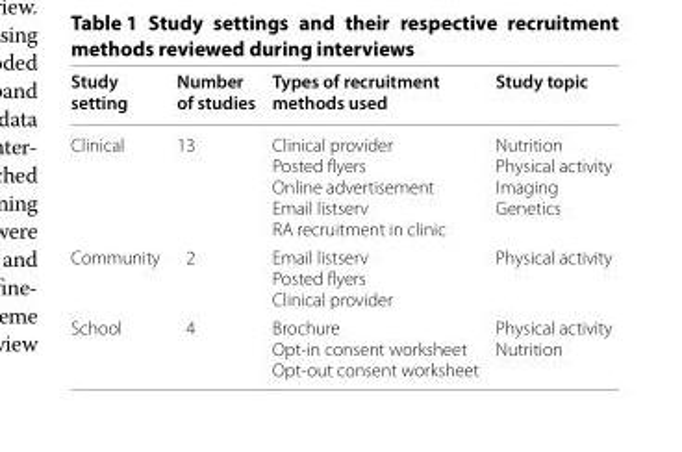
<table><thead><tr><td>Study setting</td><td>Number of studies</td><td>Types of recruitment methods used</td><td>Study topic</td></tr></thead><tbody><tr><td>Clinical</td><td>13</td><td>Clinical provider Posted flyers Online advertisement Email listserv RA recruitment in clinic</td><td>Nutrition Physical activity Imaging Genetics</td></tr><tr><td>Community</td><td>2</td><td>Email listserv Posted flyers Clinical provider</td><td>Physical activity</td></tr><tr><td>School</td><td>4</td><td>Brochure Opt-in consent worksheet Opt-out consent worksheet</td><td>Physical activity Nutrition</td></tr></tbody></table>